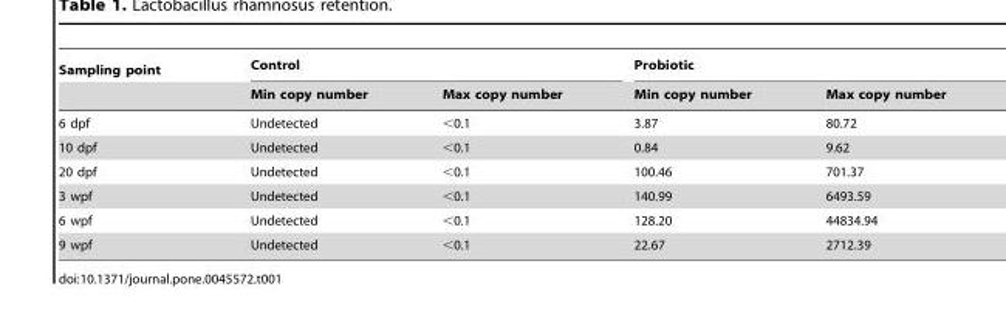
<table><thead><tr><td rowspan="2">Sampling point</td><td colspan="2">Control</td><td colspan="2">Probiotic</td></tr><tr><td>Min copy number</td><td>Max copy number</td><td>Min copy number</td><td>Max copy number</td></tr></thead><tbody><tr><td>6 dpf</td><td>Undetected</td><td>&lt;0.1</td><td>3.87</td><td>80.72</td></tr><tr><td>10 dpf</td><td>Undetected</td><td>&lt;0.1</td><td>0.84</td><td>9.62</td></tr><tr><td>20 dpf</td><td>Undetected</td><td>&lt;0.1</td><td>100.46</td><td>701.37</td></tr><tr><td>3 wpf</td><td>Undetected</td><td>&lt;0.1</td><td>140.99</td><td>6493.59</td></tr><tr><td>6 wpf</td><td>Undetected</td><td>&lt;0.1</td><td>128.20</td><td>44834.94</td></tr><tr><td>9 wpf</td><td>Undetected</td><td>&lt;0.1</td><td>22.67</td><td>2712.39</td></tr></tbody></table>